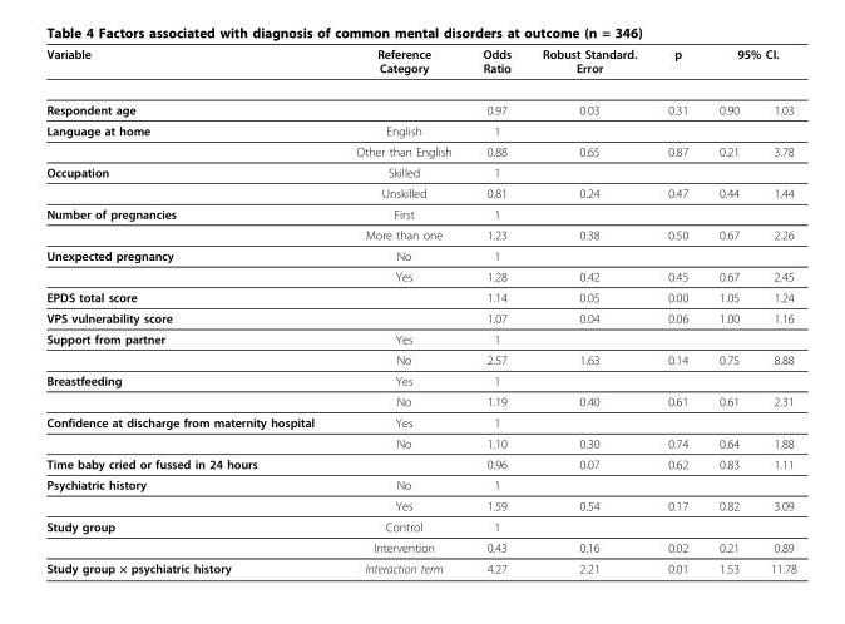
<table><thead><tr><td rowspan="2">Variable Respondent age</td><td rowspan="2">Reference Category</td><td rowspan="2">Odds Ratio 0.97</td><td rowspan="2">Robust Standard. Error 0.03</td><td rowspan="2">p 0.31</td><td colspan="2">95% CI.</td></tr><tr><td>0.90</td><td>1.03</td></tr></thead><tbody><tr><td rowspan="2">Language at home</td><td>English</td><td>1</td><td></td><td></td><td></td><td></td></tr><tr><td>Other than English</td><td>0.88</td><td>0.65</td><td>0.87</td><td>0.21</td><td>3.78</td></tr><tr><td rowspan="2">Occupation</td><td>Skilled</td><td>1</td><td></td><td></td><td></td><td></td></tr><tr><td>Unskilled</td><td>0.81</td><td>0.24</td><td>0.47</td><td>0.44</td><td>1.44</td></tr><tr><td rowspan="2">Number of pregnancies</td><td>First</td><td>1</td><td></td><td></td><td></td><td></td></tr><tr><td>More than one</td><td>1.23</td><td>0.38</td><td>0.50</td><td>0.67</td><td>2.26</td></tr><tr><td rowspan="2">Unexpected pregnancy</td><td>No</td><td>1</td><td></td><td></td><td></td><td></td></tr><tr><td>Yes</td><td>1.28</td><td>0.42</td><td>0.45</td><td>0.67</td><td>2.45</td></tr><tr><td>EPDS total score</td><td></td><td>1.14</td><td>0.05</td><td>0.00</td><td>1.05</td><td>1.24</td></tr><tr><td>VPS vulnerability score</td><td></td><td>1.07</td><td>0.04</td><td>0.06</td><td>1.00</td><td>1.16</td></tr><tr><td rowspan="2">Support from partner</td><td>Yes</td><td>1</td><td></td><td></td><td></td><td></td></tr><tr><td>No</td><td>2.57</td><td>1.63</td><td>0.14</td><td>0.75</td><td>8.88</td></tr><tr><td rowspan="2">Breastfeeding</td><td>Yes</td><td>1</td><td></td><td></td><td></td><td></td></tr><tr><td>No</td><td>1.19</td><td>0.40</td><td>0.61</td><td>0.61</td><td>2.31</td></tr><tr><td rowspan="2">Confidence at discharge from maternity hospital</td><td>Yes</td><td>1</td><td></td><td></td><td></td><td></td></tr><tr><td>No</td><td>1.10</td><td>0.30</td><td>0.74</td><td>0.64</td><td>1.88</td></tr><tr><td>Time baby cried or fussed in 24 hours</td><td></td><td>0.96</td><td>0.07</td><td>0.62</td><td>0.83</td><td>1.11</td></tr><tr><td rowspan="2">Psychiatric history</td><td>No</td><td>1</td><td></td><td></td><td></td><td></td></tr><tr><td>Yes</td><td>1.59</td><td>0.54</td><td>0.17</td><td>0.82</td><td>3.09</td></tr><tr><td rowspan="2">Study group</td><td>Control</td><td>1</td><td></td><td></td><td></td><td></td></tr><tr><td>Intervention</td><td>0.43</td><td>0.16</td><td>0.02</td><td>0.21</td><td>0.89</td></tr><tr><td>Study group × psychiatric history</td><td>Interaction term</td><td>4.27</td><td>2.21</td><td>0.01</td><td>1.53</td><td>11.78</td></tr></tbody></table>